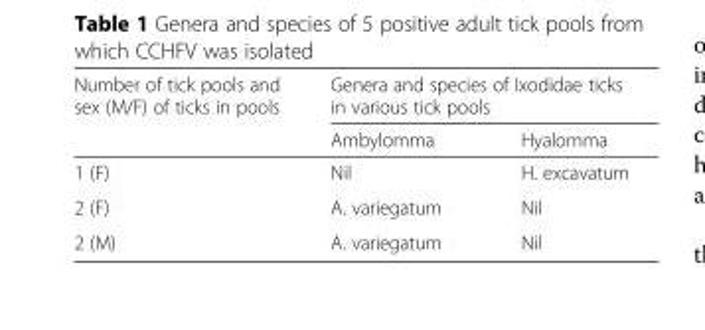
<table><thead><tr><td rowspan="2">Number of tick pools and sex (M/F) of ticks in pools</td><td colspan="2">Genera and species of Ixodidae ticks in various tick pools</td></tr><tr><td>Ambylomma</td><td>Hyalomma</td></tr></thead><tbody><tr><td>1 (F)</td><td>Nil</td><td>H. excavatum</td></tr><tr><td>2 (F)</td><td>A. variegatum</td><td>Nil</td></tr><tr><td>2 (M)</td><td>A. variegatum</td><td>Nil</td></tr></tbody></table>